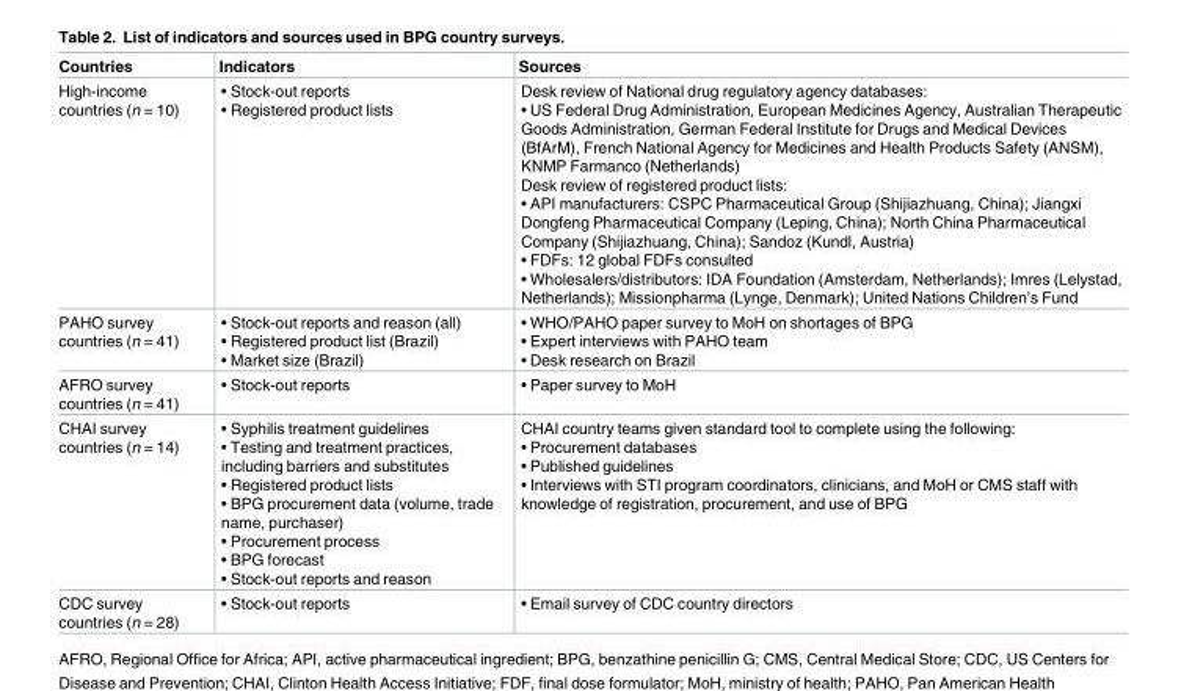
<table><thead><tr><td>Countries</td><td>Indicators</td><td>Sources</td></tr></thead><tbody><tr><td>High-income countries (n = 10)</td><td>• Stock-out reports • Registered product lists</td><td>Desk review of National drug regulatory agency databases: • US Federal Drug Administration, European Medicines Agency, Australian Therapeutic Goods Administration, German Federal Institute for Drugs and Medical Devices (BfArM), French National Agency for Medicines and Health Products Safety (ANSM), KNMP Farmanco (Netherlands) Desk review of registered product lists: • API manufacturers: CSPC Pharmaceutical Group (Shijiazhuang, China); Jiangxi Dongfeng Pharmaceutical Company (Leping, China); North China Pharmaceutical Company (Shijiazhuang, China); Sandoz (Kundl, Austria) • FDFs: 12 global FDFs consulted • Wholesalers/distributors: IDA Foundation (Amsterdam, Netherlands); Imres (Lelystad, Netherlands); Missionpharma (Lynge, Denmark); United Nations Children’s Fund</td></tr><tr><td>PAHO survey countries (n = 41)</td><td>• Stock-out reports and reason (all) • Registered product list (Brazil) • Market size (Brazil)</td><td>• WHO/PAHO paper survey to MoH on shortages of BPG • Expert interviews with PAHO team • Desk research on Brazil</td></tr><tr><td>AFRO survey countries (n = 41)</td><td>• Stock-out reports</td><td>• Paper survey to MoH</td></tr><tr><td>CHAI survey countries (n = 14)</td><td>• Syphilis treatment guidelines • Testing and treatment practices, including barriers and substitutes • Registered product lists • BPG procurement data (volume, trade name, purchaser) • Procurement process • BPG forecast • Stock-out reports and reason</td><td>CHAI country teams given standard tool to complete using the following: • Procurement databases • Published guidelines • Interviews with STI program coordinators, clinicians, and MoH or CMS staff with knowledge of registration, procurement, and use of BPG</td></tr><tr><td>CDC survey countries (n = 28)</td><td>• Stock-out reports</td><td>• Email survey of CDC country directors</td></tr></tbody></table>